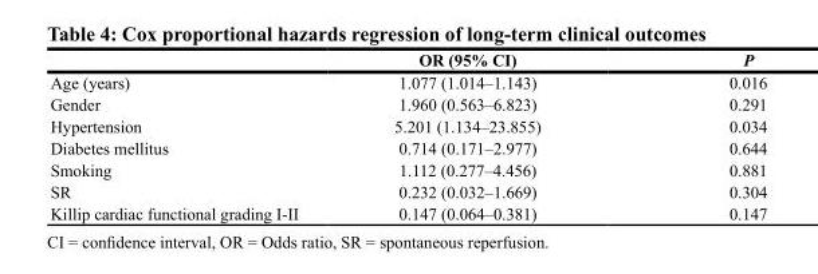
<table><thead><tr><td></td><td>OR (95% CI)</td><td>P</td></tr></thead><tbody><tr><td>Age (years)</td><td>1.077 (1.014–1.143)</td><td>0.016</td></tr><tr><td>Gender</td><td>1.960 (0.563–6.823)</td><td>0.291</td></tr><tr><td>Hypertension</td><td>5.201 (1.134–23.855)</td><td>0.034</td></tr><tr><td>Diabetes mellitus</td><td>0.714 (0.171–2.977)</td><td>0.644</td></tr><tr><td>Smoking</td><td>1.112 (0.277–4.456)</td><td>0.881</td></tr><tr><td>SR</td><td>0.232 (0.032–1.669)</td><td>0.304</td></tr><tr><td>Killip cardiac functional grading I-II</td><td>0.147 (0.064–0.381)</td><td>0.147</td></tr></tbody></table>